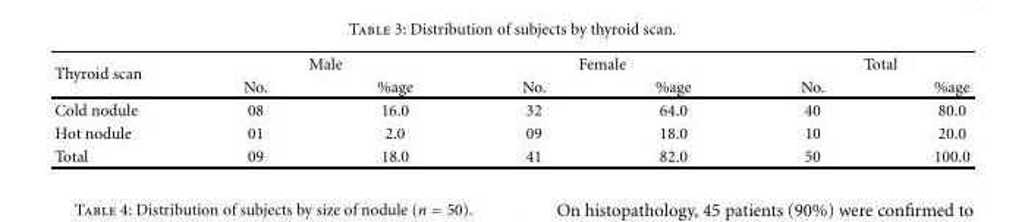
<table><thead><tr><td rowspan="2">Thyroid scan</td><td colspan="2">Male</td><td colspan="2">Female</td><td colspan="2">Total</td></tr><tr><td>No.</td><td>%age</td><td>No.</td><td>%age</td><td>No.</td><td>%age</td></tr></thead><tbody><tr><td>Cold nodule</td><td>08</td><td>16.0</td><td>32</td><td>64.0</td><td>40</td><td>80.0</td></tr><tr><td>Hot nodule</td><td>01</td><td>2.0</td><td>09</td><td>18.0</td><td>10</td><td>20.0</td></tr><tr><td>Total</td><td>09</td><td>18.0</td><td>41</td><td>82.0</td><td>50</td><td>100.0</td></tr></tbody></table>